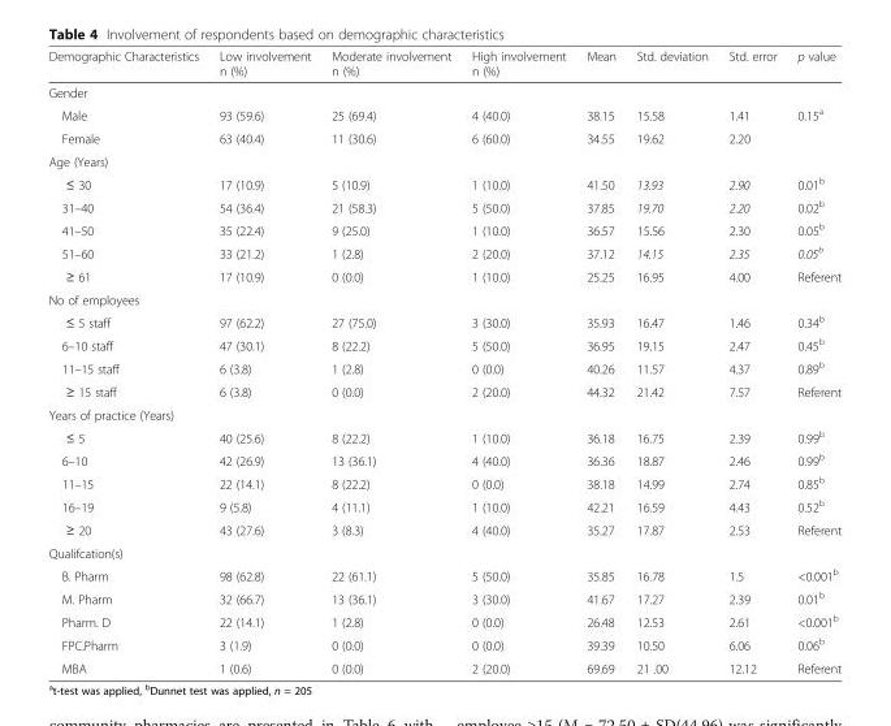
<table><thead><tr><td>Demographic Characteristics</td><td>Low involvement n (%)</td><td>Moderate involvement n (%)</td><td>High involvement n (%)</td><td>Mean</td><td>Std. deviation</td><td>Std. error</td><td>p value</td></tr></thead><tbody><tr><td colspan="8">Gender</td></tr><tr><td>Male</td><td>93 (59.6)</td><td>25 (69.4)</td><td>4 (40.0)</td><td>38.15</td><td>15.58</td><td>1.41</td><td>0.15<sup>a</sup></td></tr><tr><td>Female</td><td>63 (40.4)</td><td>11 (30.6)</td><td>6 (60.0)</td><td>34.55</td><td>19.62</td><td>2.20</td><td></td></tr><tr><td colspan="8">Age (Years)</td></tr><tr><td>≤ 30</td><td>17 (10.9)</td><td>5 (10.9)</td><td>1 (10.0)</td><td>41.50</td><td>13.93</td><td>2.90</td><td>0.01<sup>b</sup></td></tr><tr><td>31–40</td><td>54 (36.4)</td><td>21 (58.3)</td><td>5 (50.0)</td><td>37.85</td><td>19.70</td><td>2.20</td><td>0.02<sup>b</sup></td></tr><tr><td>41–50</td><td>35 (22.4)</td><td>9 (25.0)</td><td>1 (10.0)</td><td>36.57</td><td>15.56</td><td>2.30</td><td>0.05<sup>b</sup></td></tr><tr><td>51–60</td><td>33 (21.2)</td><td>1 (2.8)</td><td>2 (20.0)</td><td>37.12</td><td>14.15</td><td>2.35</td><td>0.05<sup>b</sup></td></tr><tr><td>≥ 61</td><td>17 (10.9)</td><td>0 (0.0)</td><td>1 (10.0)</td><td>25.25</td><td>16.95</td><td>4.00</td><td>Referent</td></tr><tr><td colspan="8">No of employees</td></tr><tr><td>≤ 5 staff</td><td>97 (62.2)</td><td>27 (75.0)</td><td>3 (30.0)</td><td>35.93</td><td>16.47</td><td>1.46</td><td>0.34<sup>b</sup></td></tr><tr><td>6–10 staff</td><td>47 (30.1)</td><td>8 (22.2)</td><td>5 (50.0)</td><td>36.95</td><td>19.15</td><td>2.47</td><td>0.45<sup>b</sup></td></tr><tr><td>11–15 staff</td><td>6 (3.8)</td><td>1 (2.8)</td><td>0 (0.0)</td><td>40.26</td><td>11.57</td><td>4.37</td><td>0.89<sup>b</sup></td></tr><tr><td>≥ 15 staff</td><td>6 (3.8)</td><td>0 (0.0)</td><td>2 (20.0)</td><td>44.32</td><td>21.42</td><td>7.57</td><td>Referent</td></tr><tr><td colspan="8">Years of practice (Years)</td></tr><tr><td>≤ 5</td><td>40 (25.6)</td><td>8 (22.2)</td><td>1 (10.0)</td><td>36.18</td><td>16.75</td><td>2.39</td><td>0.99<sup>b</sup></td></tr><tr><td>6–10</td><td>42 (26.9)</td><td>13 (36.1)</td><td>4 (40.0)</td><td>36.36</td><td>18.87</td><td>2.46</td><td>0.99<sup>b</sup></td></tr><tr><td>11–15</td><td>22 (14.1)</td><td>8 (22.2)</td><td>0 (0.0)</td><td>38.18</td><td>14.99</td><td>2.74</td><td>0.85<sup>b</sup></td></tr><tr><td>16–19</td><td>9 (5.8)</td><td>4 (11.1)</td><td>1 (10.0)</td><td>42.21</td><td>16.59</td><td>4.43</td><td>0.52<sup>b</sup></td></tr><tr><td>≥ 20</td><td>43 (27.6)</td><td>3 (8.3)</td><td>4 (40.0)</td><td>35.27</td><td>17.87</td><td>2.53</td><td>Referent</td></tr><tr><td colspan="8">Qualifcation(s)</td></tr><tr><td>B. Pharm</td><td>98 (62.8)</td><td>22 (61.1)</td><td>5 (50.0)</td><td>35.85</td><td>16.78</td><td>1.5</td><td>&lt;0.001<sup>b</sup></td></tr><tr><td>M. Pharm</td><td>32 (66.7)</td><td>13 (36.1)</td><td>3 (30.0)</td><td>41.67</td><td>17.27</td><td>2.39</td><td>0.01<sup>b</sup></td></tr><tr><td>Pharm. D</td><td>22 (14.1)</td><td>1 (2.8)</td><td>0 (0.0)</td><td>26.48</td><td>12.53</td><td>2.61</td><td>&lt;0.001<sup>b</sup></td></tr><tr><td>FPC.Pharm</td><td>3 (1.9)</td><td>0 (0.0)</td><td>0 (0.0)</td><td>39.39</td><td>10.50</td><td>6.06</td><td>0.06<sup>b</sup></td></tr><tr><td>MBA</td><td>1 (0.6)</td><td>0 (0.0)</td><td>2 (20.0)</td><td>69.69</td><td>21 .00</td><td>12.12</td><td>Referent</td></tr></tbody></table>